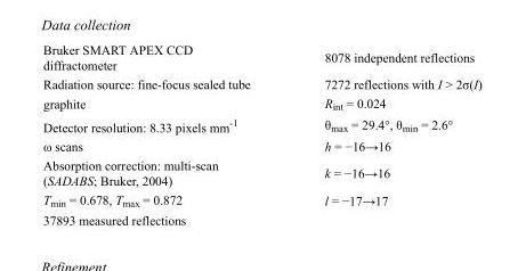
<table><tbody><tr><td>Bruker SMART APEX CCD diffractometer</td><td>8078 independent reflections</td></tr><tr><td>Radiation source: fine-focus sealed tube</td><td>7272 reflections with I &gt; 2σ(I)</td></tr><tr><td>graphite</td><td>R<sub>int</sub> = 0.024</td></tr><tr><td>Detector resolution: 8.33 pixels mm<sup>-1</sup></td><td>θ<sub>max</sub> = 29.4°, θ<sub>min</sub> = 2.6°</td></tr><tr><td>ω scans</td><td>h = −16→16</td></tr><tr><td>Absorption correction: multi-scan (SADABS; Bruker, 2004)</td><td>k = −16→16</td></tr><tr><td>T<sub>min</sub> = 0.678, T<sub>max</sub> = 0.872</td><td>l = −17→17</td></tr><tr><td>37893 measured reflections</td><td></td></tr></tbody></table>